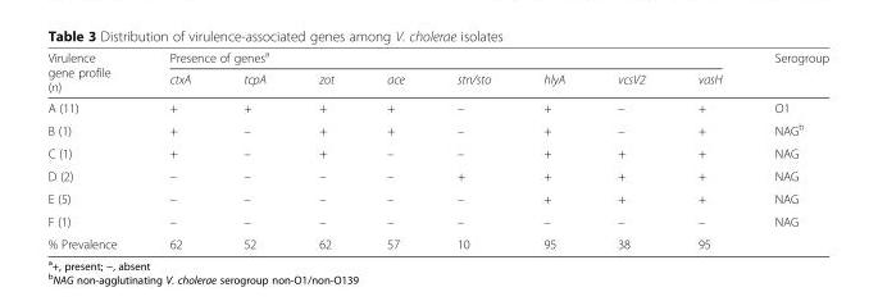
<table><thead><tr><td rowspan="2">Virulence gene profile (n)</td><td colspan="8">Presence of genes<sup>a</sup></td><td rowspan="2">Serogroup</td></tr><tr><td>ctxA</td><td>tcpA</td><td>zot</td><td>ace</td><td>stn/sto</td><td>hlyA</td><td>vcsV2</td><td>vasH</td></tr></thead><tbody><tr><td>A (11)</td><td>+</td><td>+</td><td>+</td><td>+</td><td>–</td><td>+</td><td>–</td><td>+</td><td>O1</td></tr><tr><td>B (1)</td><td>+</td><td>–</td><td>+</td><td>+</td><td>–</td><td>+</td><td>–</td><td>+</td><td>NAG<sup>b</sup></td></tr><tr><td>C (1)</td><td>+</td><td>–</td><td>+</td><td>–</td><td>–</td><td>+</td><td>+</td><td>+</td><td>NAG</td></tr><tr><td>D (2)</td><td>–</td><td>–</td><td>–</td><td>–</td><td>+</td><td>+</td><td>+</td><td>+</td><td>NAG</td></tr><tr><td>E (5)</td><td>–</td><td>–</td><td>–</td><td>–</td><td>–</td><td>+</td><td>+</td><td>+</td><td>NAG</td></tr><tr><td>F (1)</td><td>–</td><td>–</td><td>–</td><td>–</td><td>–</td><td>–</td><td>–</td><td>–</td><td>NAG</td></tr><tr><td>% Prevalence</td><td>62</td><td>52</td><td>62</td><td>57</td><td>10</td><td>95</td><td>38</td><td>95</td><td></td></tr></tbody></table>